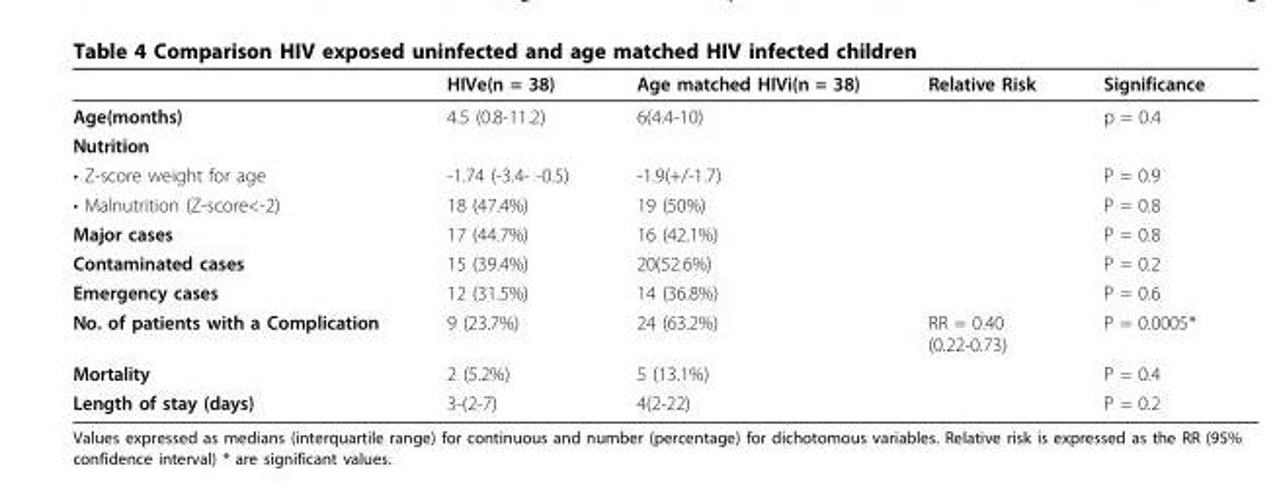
<table><thead><tr><td></td><td>HIVe(n = 38)</td><td>Age matched HIVi(n = 38)</td><td>Relative Risk</td><td>Significance</td></tr></thead><tbody><tr><td>Age(months)</td><td>4.5 (0.8-11.2)</td><td>6(4.4-10)</td><td></td><td>p = 0.4</td></tr><tr><td colspan="5">Nutrition</td></tr><tr><td>• Z-score weight for age</td><td>-1.74 (-3.4- -0.5)</td><td>-1.9(+/-1.7)</td><td></td><td>P = 0.9</td></tr><tr><td>• Malnutrition (Z-score&lt;-2)</td><td>18 (47.4%)</td><td>19 (50%)</td><td></td><td>P = 0.8</td></tr><tr><td>Major cases</td><td>17 (44.7%)</td><td>16 (42.1%)</td><td></td><td>P = 0.8</td></tr><tr><td>Contaminated cases</td><td>15 (39.4%)</td><td>20(52.6%)</td><td></td><td>P = 0.2</td></tr><tr><td>Emergency cases</td><td>12 (31.5%)</td><td>14 (36.8%)</td><td></td><td>P = 0.6</td></tr><tr><td>No. of patients with a Complication</td><td>9 (23.7%)</td><td>24 (63.2%)</td><td>RR = 0.40 (0.22-0.73)</td><td>P = 0.0005*</td></tr><tr><td>Mortality</td><td>2 (5.2%)</td><td>5 (13.1%)</td><td></td><td>P = 0.4</td></tr><tr><td>Length of stay (days)</td><td>3-(2-7)</td><td>4(2-22)</td><td></td><td>P = 0.2</td></tr></tbody></table>